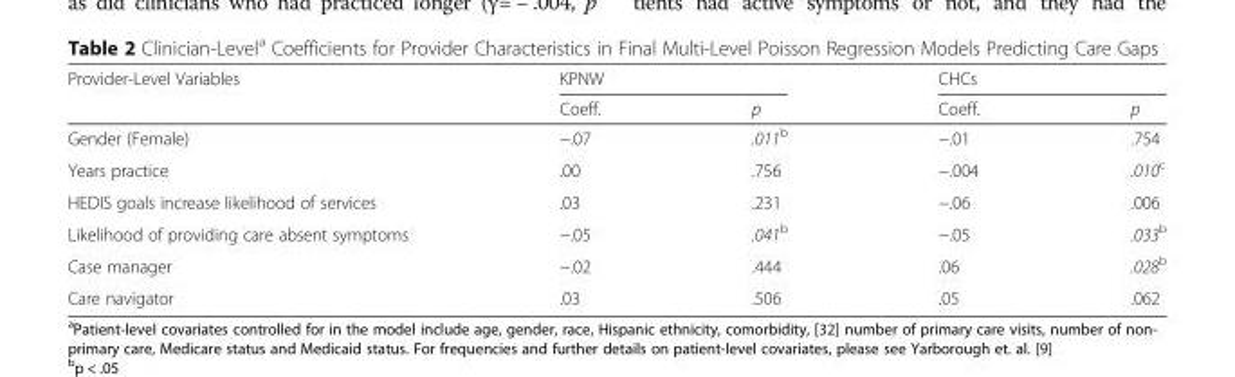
<table><thead><tr><td rowspan="2">Provider-Level Variables</td><td colspan="2">KPNW</td><td colspan="2">CHCs</td></tr><tr><td>Coeff.</td><td>p</td><td>Coeff.</td><td>p</td></tr></thead><tbody><tr><td>Gender (Female)</td><td>−.07</td><td>.011<sup>b</sup></td><td>−.01</td><td>.754</td></tr><tr><td>Years practice</td><td>.00</td><td>.756</td><td>−.004</td><td>.010<sup>c</sup></td></tr><tr><td>HEDIS goals increase likelihood of services</td><td>.03</td><td>.231</td><td>−.06</td><td>.006</td></tr><tr><td>Likelihood of providing care absent symptoms</td><td>−.05</td><td>.041<sup>b</sup></td><td>−.05</td><td>.033<sup>b</sup></td></tr><tr><td>Case manager</td><td>−.02</td><td>.444</td><td>.06</td><td>.028<sup>b</sup></td></tr><tr><td>Care navigator</td><td>.03</td><td>.506</td><td>.05</td><td>.062</td></tr></tbody></table>